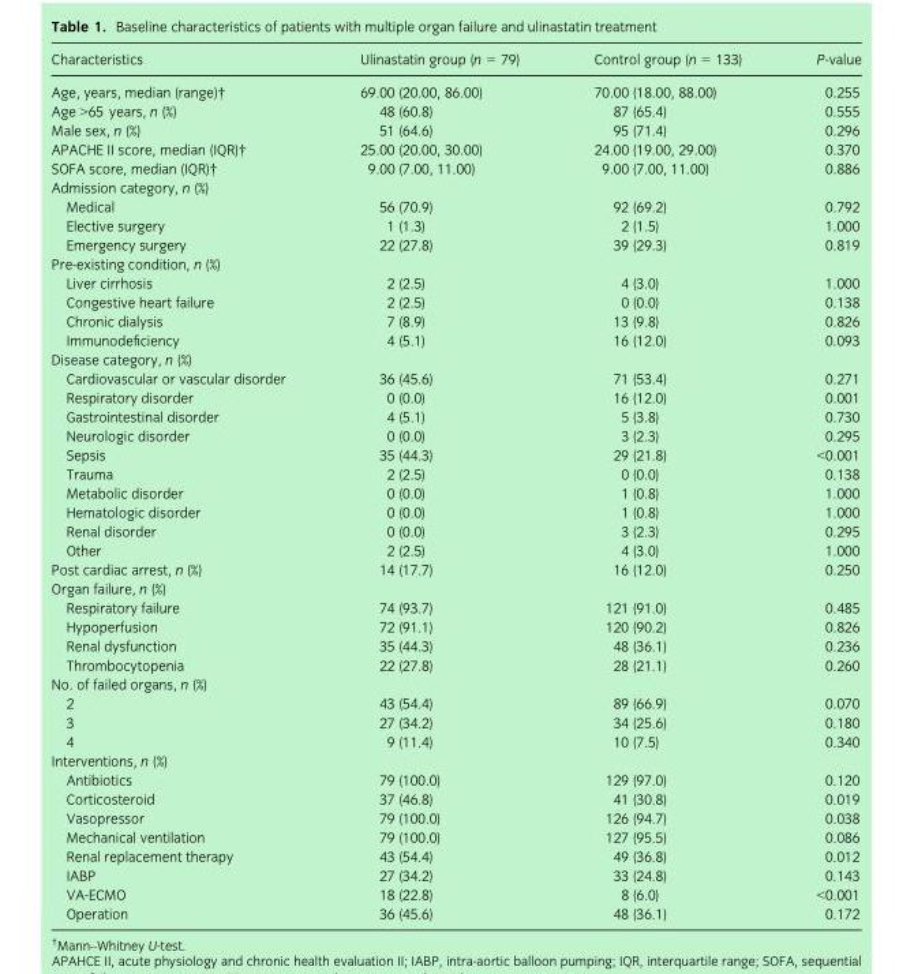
<table><thead><tr><td>Characteristics</td><td>Ulinastatin group (n = 79)</td><td>Control group (n = 133)</td><td>P-value</td></tr></thead><tbody><tr><td>Age, years, median (range)†</td><td>69.00 (20.00, 86.00)</td><td>70.00 (18.00, 88.00)</td><td>0.255</td></tr><tr><td>Age &gt;65 years, n (%)</td><td>48 (60.8)</td><td>87 (65.4)</td><td>0.555</td></tr><tr><td>Male sex, n (%)</td><td>51 (64.6)</td><td>95 (71.4)</td><td>0.296</td></tr><tr><td>APACHE II score, median (IQR)†</td><td>25.00 (20.00, 30.00)</td><td>24.00 (19.00, 29.00)</td><td>0.370</td></tr><tr><td>SOFA score, median (IQR)†</td><td>9.00 (7.00, 11.00)</td><td>9.00 (7.00, 11.00)</td><td>0.886</td></tr><tr><td colspan="4">Admission category, n (%)</td></tr><tr><td>Medical</td><td>56 (70.9)</td><td>92 (69.2)</td><td>0.792</td></tr><tr><td>Elective surgery</td><td>1 (1.3)</td><td>2 (1.5)</td><td>1.000</td></tr><tr><td>Emergency surgery</td><td>22 (27.8)</td><td>39 (29.3)</td><td>0.819</td></tr><tr><td colspan="4">Pre-existing condition, n (%)</td></tr><tr><td>Liver cirrhosis</td><td>2 (2.5)</td><td>4 (3.0)</td><td>1.000</td></tr><tr><td>Congestive heart failure</td><td>2 (2.5)</td><td>0 (0.0)</td><td>0.138</td></tr><tr><td>Chronic dialysis</td><td>7 (8.9)</td><td>13 (9.8)</td><td>0.826</td></tr><tr><td>Immunodeficiency</td><td>4 (5.1)</td><td>16 (12.0)</td><td>0.093</td></tr><tr><td colspan="4">Disease category, n (%)</td></tr><tr><td>Cardiovascular or vascular disorder</td><td>36 (45.6)</td><td>71 (53.4)</td><td>0.271</td></tr><tr><td>Respiratory disorder</td><td>0 (0.0)</td><td>16 (12.0)</td><td>0.001</td></tr><tr><td>Gastrointestinal disorder</td><td>4 (5.1)</td><td>5 (3.8)</td><td>0.730</td></tr><tr><td>Neurologic disorder</td><td>0 (0.0)</td><td>3 (2.3)</td><td>0.295</td></tr><tr><td>Sepsis</td><td>35 (44.3)</td><td>29 (21.8)</td><td>&lt;0.001</td></tr><tr><td>Trauma</td><td>2 (2.5)</td><td>0 (0.0)</td><td>0.138</td></tr><tr><td>Metabolic disorder</td><td>0 (0.0)</td><td>1 (0.8)</td><td>1.000</td></tr><tr><td>Hematologic disorder</td><td>0 (0.0)</td><td>1 (0.8)</td><td>1.000</td></tr><tr><td>Renal disorder</td><td>0 (0.0)</td><td>3 (2.3)</td><td>0.295</td></tr><tr><td>Other</td><td>2 (2.5)</td><td>4 (3.0)</td><td>1.000</td></tr><tr><td>Post cardiac arrest, n (%)</td><td>14 (17.7)</td><td>16 (12.0)</td><td>0.250</td></tr><tr><td colspan="4">Organ failure, n (%)</td></tr><tr><td>Respiratory failure</td><td>74 (93.7)</td><td>121 (91.0)</td><td>0.485</td></tr><tr><td>Hypoperfusion</td><td>72 (91.1)</td><td>120 (90.2)</td><td>0.826</td></tr><tr><td>Renal dysfunction</td><td>35 (44.3)</td><td>48 (36.1)</td><td>0.236</td></tr><tr><td>Thrombocytopenia</td><td>22 (27.8)</td><td>28 (21.1)</td><td>0.260</td></tr><tr><td colspan="4">No. of failed organs, n (%)</td></tr><tr><td>2</td><td>43 (54.4)</td><td>89 (66.9)</td><td>0.070</td></tr><tr><td>3</td><td>27 (34.2)</td><td>34 (25.6)</td><td>0.180</td></tr><tr><td>4</td><td>9 (11.4)</td><td>10 (7.5)</td><td>0.340</td></tr><tr><td colspan="4">Interventions, n (%)</td></tr><tr><td>Antibiotics</td><td>79 (100.0)</td><td>129 (97.0)</td><td>0.120</td></tr><tr><td>Corticosteroid</td><td>37 (46.8)</td><td>41 (30.8)</td><td>0.019</td></tr><tr><td>Vasopressor</td><td>79 (100.0)</td><td>126 (94.7)</td><td>0.038</td></tr><tr><td>Mechanical ventilation</td><td>79 (100.0)</td><td>127 (95.5)</td><td>0.086</td></tr><tr><td>Renal replacement therapy</td><td>43 (54.4)</td><td>49 (36.8)</td><td>0.012</td></tr><tr><td>IABP</td><td>27 (34.2)</td><td>33 (24.8)</td><td>0.143</td></tr><tr><td>VA-ECMO</td><td>18 (22.8)</td><td>8 (6.0)</td><td>&lt;0.001</td></tr><tr><td>Operation</td><td>36 (45.6)</td><td>48 (36.1)</td><td>0.172</td></tr></tbody></table>